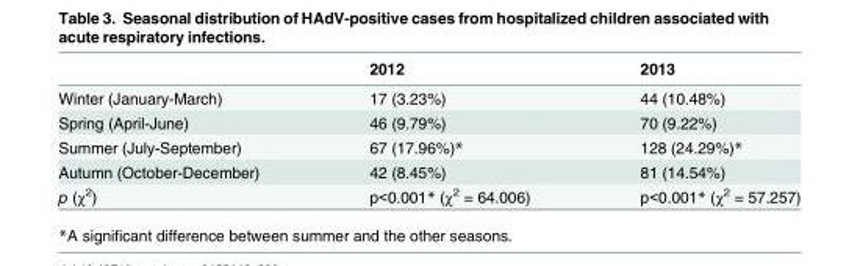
<table><thead><tr><td></td><td>2012</td><td>2013</td></tr></thead><tbody><tr><td>Winter (January-March)</td><td>17 (3.23%)</td><td>44 (10.48%)</td></tr><tr><td>Spring (April-June)</td><td>46 (9.79%)</td><td>70 (9.22%)</td></tr><tr><td>Summer (July-September)</td><td>67 (17.96%)*</td><td>128 (24.29%)*</td></tr><tr><td>Autumn (October-December)</td><td>42 (8.45%)</td><td>81 (14.54%)</td></tr><tr><td>p (χ<sup>2</sup>)</td><td>p&lt;0.001* (χ<sup>2</sup> = 64.006)</td><td>p&lt;0.001* (χ<sup>2</sup> = 57.257)</td></tr></tbody></table>